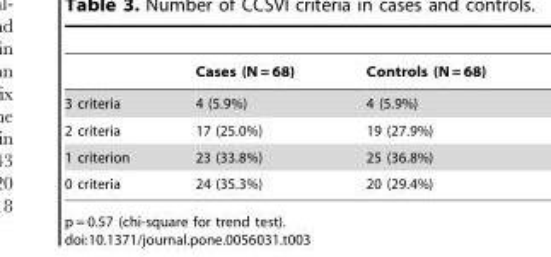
<table><thead><tr><td></td><td>Cases (N = 68)</td><td>Controls (N = 68)</td></tr></thead><tbody><tr><td>3 criteria</td><td>4 (5.9%)</td><td>4 (5.9%)</td></tr><tr><td>2 criteria</td><td>17 (25.0%)</td><td>19 (27.9%)</td></tr><tr><td>1 criterion</td><td>23 (33.8%)</td><td>25 (36.8%)</td></tr><tr><td>0 criteria</td><td>24 (35.3%)</td><td>20 (29.4%)</td></tr></tbody></table>